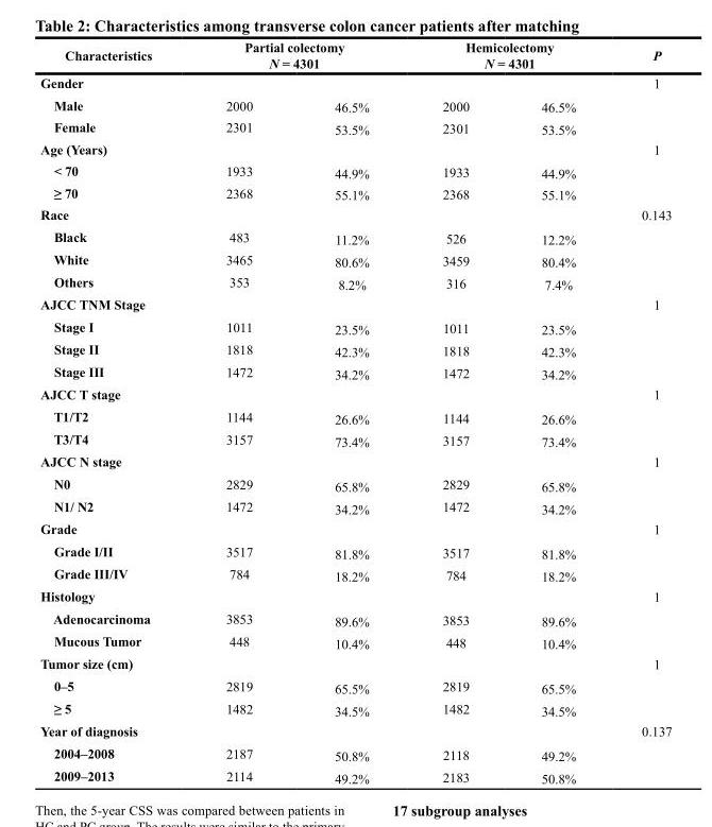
<table><thead><tr><td rowspan="2">Characteristics Gender</td><td colspan="2">Partial colectomy N = 4301</td><td colspan="2">Hemicolectomy N = 4301</td><td rowspan="2">P 1</td></tr><tr><td></td><td></td><td></td><td></td></tr></thead><tbody><tr><td>Male</td><td>2000</td><td>46.5%</td><td>2000</td><td>46.5%</td><td></td></tr><tr><td>Female</td><td>2301</td><td>53.5%</td><td>2301</td><td>53.5%</td><td></td></tr><tr><td>Age (Years)</td><td></td><td></td><td></td><td></td><td>1</td></tr><tr><td>&lt; 70</td><td>1933</td><td>44.9%</td><td>1933</td><td>44.9%</td><td></td></tr><tr><td>≥ 70</td><td>2368</td><td>55.1%</td><td>2368</td><td>55.1%</td><td></td></tr><tr><td>Race</td><td></td><td></td><td></td><td></td><td>0.143</td></tr><tr><td>Black</td><td>483</td><td>11.2%</td><td>526</td><td>12.2%</td><td></td></tr><tr><td>White</td><td>3465</td><td>80.6%</td><td>3459</td><td>80.4%</td><td></td></tr><tr><td>Others</td><td>353</td><td>8.2%</td><td>316</td><td>7.4%</td><td></td></tr><tr><td>AJCC TNM Stage</td><td></td><td></td><td></td><td></td><td>1</td></tr><tr><td>Stage I</td><td>1011</td><td>23.5%</td><td>1011</td><td>23.5%</td><td></td></tr><tr><td>Stage II</td><td>1818</td><td>42.3%</td><td>1818</td><td>42.3%</td><td></td></tr><tr><td>Stage III</td><td>1472</td><td>34.2%</td><td>1472</td><td>34.2%</td><td></td></tr><tr><td>AJCC T stage</td><td></td><td></td><td></td><td></td><td>1</td></tr><tr><td>T1/T2</td><td>1144</td><td>26.6%</td><td>1144</td><td>26.6%</td><td></td></tr><tr><td>T3/T4</td><td>3157</td><td>73.4%</td><td>3157</td><td>73.4%</td><td></td></tr><tr><td>AJCC N stage</td><td></td><td></td><td></td><td></td><td>1</td></tr><tr><td>N0</td><td>2829</td><td>65.8%</td><td>2829</td><td>65.8%</td><td></td></tr><tr><td>N1/ N2</td><td>1472</td><td>34.2%</td><td>1472</td><td>34.2%</td><td></td></tr><tr><td>Grade</td><td></td><td></td><td></td><td></td><td>1</td></tr><tr><td>Grade I/II</td><td>3517</td><td>81.8%</td><td>3517</td><td>81.8%</td><td></td></tr><tr><td>Grade III/IV</td><td>784</td><td>18.2%</td><td>784</td><td>18.2%</td><td></td></tr><tr><td>Histology</td><td></td><td></td><td></td><td></td><td>1</td></tr><tr><td>Adenocarcinoma</td><td>3853</td><td>89.6%</td><td>3853</td><td>89.6%</td><td></td></tr><tr><td>Mucous Tumor</td><td>448</td><td>10.4%</td><td>448</td><td>10.4%</td><td></td></tr><tr><td>Tumor size (cm)</td><td></td><td></td><td></td><td></td><td>1</td></tr><tr><td>0–5</td><td>2819</td><td>65.5%</td><td>2819</td><td>65.5%</td><td></td></tr><tr><td>≥ 5</td><td>1482</td><td>34.5%</td><td>1482</td><td>34.5%</td><td></td></tr><tr><td>Year of diagnosis</td><td></td><td></td><td></td><td></td><td>0.137</td></tr><tr><td>2004–2008</td><td>2187</td><td>50.8%</td><td>2118</td><td>49.2%</td><td></td></tr><tr><td>2009–2013</td><td>2114</td><td>49.2%</td><td>2183</td><td>50.8%</td><td></td></tr></tbody></table>